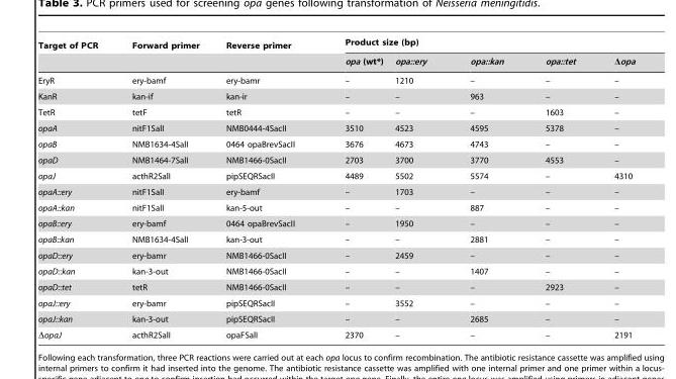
<table><thead><tr><td rowspan="2">Target of PCR</td><td rowspan="2">Forward primer</td><td rowspan="2">Reverse primer</td><td colspan="5">Product size (bp)</td></tr><tr><td>opa (wt*)</td><td>opa::ery</td><td>opa::kan</td><td>opa::tet</td><td>Δopa</td></tr></thead><tbody><tr><td>EryR</td><td>ery-bamf</td><td>ery-bamr</td><td>–</td><td>1210</td><td>–</td><td>–</td><td>–</td></tr><tr><td>KanR</td><td>kan-if</td><td>kan-ir</td><td>–</td><td>–</td><td>963</td><td>–</td><td>–</td></tr><tr><td>TetR</td><td>tetF</td><td>tetR</td><td>–</td><td>–</td><td>–</td><td>1603</td><td>–</td></tr><tr><td>opaA</td><td>nitF1SalI</td><td>NMB0444-4SacII</td><td>3510</td><td>4523</td><td>4595</td><td>5378</td><td>–</td></tr><tr><td>opaB</td><td>NMB1634-4SalI</td><td>0464 opaBrevSacII</td><td>3676</td><td>4673</td><td>4743</td><td>–</td><td>–</td></tr><tr><td>opaD</td><td>NMB1464-7SalI</td><td>NMB1466-0SacII</td><td>2703</td><td>3700</td><td>3770</td><td>4553</td><td>–</td></tr><tr><td>opaJ</td><td>acthR2SalI</td><td>pipSEQRSacII</td><td>4489</td><td>5502</td><td>5574</td><td>–</td><td>4310</td></tr><tr><td>opaA::ery</td><td>nitF1SalI</td><td>ery-bamf</td><td>–</td><td>1703</td><td>–</td><td>–</td><td>–</td></tr><tr><td>opaA::kan</td><td>nitF1SalI</td><td>kan-5-out</td><td>–</td><td>–</td><td>887</td><td>–</td><td>–</td></tr><tr><td>opaB::ery</td><td>ery-bamf</td><td>0464 opaBrevSacII</td><td>–</td><td>1950</td><td>–</td><td>–</td><td>–</td></tr><tr><td>opaB::kan</td><td>NMB1634-4SalI</td><td>kan-3-out</td><td>–</td><td>–</td><td>2881</td><td>–</td><td>–</td></tr><tr><td>opaD::ery</td><td>ery-bamr</td><td>NMB1466-0SacII</td><td>–</td><td>2459</td><td>–</td><td>–</td><td>–</td></tr><tr><td>opaD::kan</td><td>kan-3-out</td><td>NMB1466-0SacII</td><td>–</td><td>–</td><td>1407</td><td>–</td><td>–</td></tr><tr><td>opaD::tet</td><td>tetR</td><td>NMB1466-0SacII</td><td>–</td><td>–</td><td>–</td><td>2923</td><td>–</td></tr><tr><td>opaJ::ery</td><td>ery-bamr</td><td>pipSEQRSacII</td><td>–</td><td>3552</td><td>–</td><td>–</td><td>–</td></tr><tr><td>opaJ::kan</td><td>kan-3-out</td><td>pipSEQRSacII</td><td>–</td><td>–</td><td>2685</td><td>–</td><td>–</td></tr><tr><td>ΔopaJ</td><td>acthR2SalI</td><td>opaFSalI</td><td>2370</td><td>–</td><td>–</td><td>–</td><td>2191</td></tr></tbody></table>